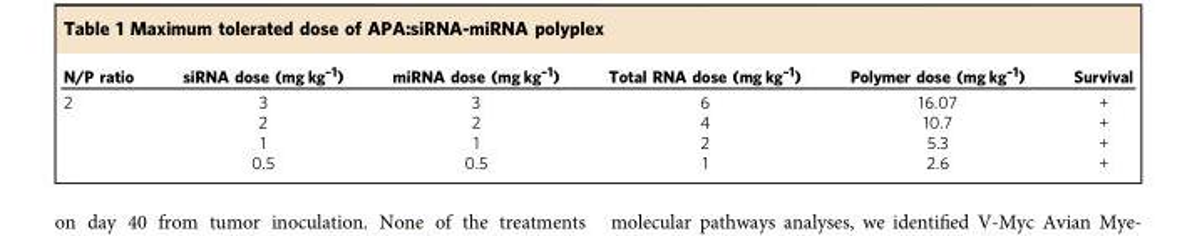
<table><thead><tr><td>N/P ratio</td><td>siRNA dose (mg kg<sup>–1</sup>)</td><td>miRNA dose (mg kg<sup>–1</sup>)</td><td>Total RNA dose (mg kg<sup>–1</sup>)</td><td>Polymer dose (mg kg<sup>–1</sup>)</td><td>Survival</td></tr></thead><tbody><tr><td rowspan="4">2</td><td>3</td><td>3</td><td>6</td><td>16.07</td><td>+</td></tr><tr><td>2</td><td>2</td><td>4</td><td>10.7</td><td>+</td></tr><tr><td>1</td><td>1</td><td>2</td><td>5.3</td><td>+</td></tr><tr><td>0.5</td><td>0.5</td><td>1</td><td>2.6</td><td>+</td></tr></tbody></table>